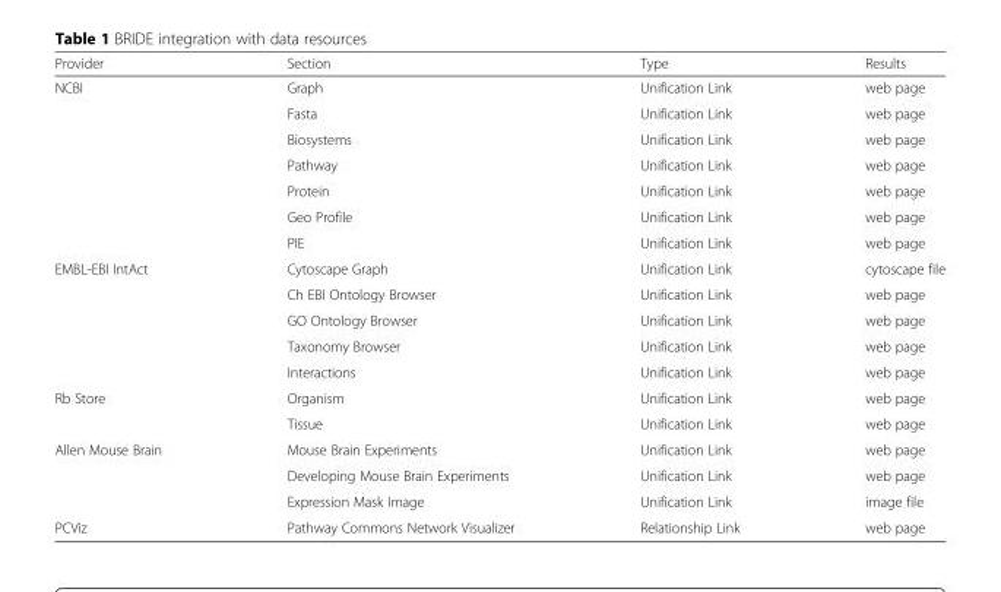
<table><thead><tr><td>Provider</td><td>Section</td><td>Type</td><td>Results</td></tr></thead><tbody><tr><td rowspan="7">NCBI</td><td>Graph</td><td>Unification Link</td><td>web page</td></tr><tr><td>Fasta</td><td>Unification Link</td><td>web page</td></tr><tr><td>Biosystems</td><td>Unification Link</td><td>web page</td></tr><tr><td>Pathway</td><td>Unification Link</td><td>web page</td></tr><tr><td>Protein</td><td>Unification Link</td><td>web page</td></tr><tr><td>Geo Profile</td><td>Unification Link</td><td>web page</td></tr><tr><td>PIE</td><td>Unification Link</td><td>web page</td></tr><tr><td rowspan="5">EMBL-EBI IntAct</td><td>Cytoscape Graph</td><td>Unification Link</td><td>cytoscape file</td></tr><tr><td>Ch EBI Ontology Browser</td><td>Unification Link</td><td>web page</td></tr><tr><td>GO Ontology Browser</td><td>Unification Link</td><td>web page</td></tr><tr><td>Taxonomy Browser</td><td>Unification Link</td><td>web page</td></tr><tr><td>Interactions</td><td>Unification Link</td><td>web page</td></tr><tr><td rowspan="2">Rb Store</td><td>Organism</td><td>Unification Link</td><td>web page</td></tr><tr><td>Tissue</td><td>Unification Link</td><td>web page</td></tr><tr><td rowspan="3">Allen Mouse Brain</td><td>Mouse Brain Experiments</td><td>Unification Link</td><td>web page</td></tr><tr><td>Developing Mouse Brain Experiments</td><td>Unification Link</td><td>web page</td></tr><tr><td>Expression Mask Image</td><td>Unification Link</td><td>image file</td></tr><tr><td>PCViz</td><td>Pathway Commons Network Visualizer</td><td>Relationship Link</td><td>web page</td></tr></tbody></table>